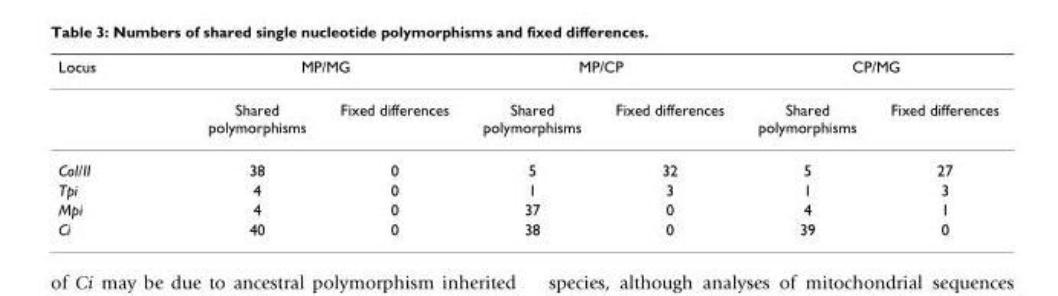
<table><thead><tr><td rowspan="2">Locus</td><td colspan="2">MP/MG</td><td colspan="2">MP/CP</td><td colspan="2">CP/MG</td></tr><tr><td>Shared polymorphisms</td><td>Fixed differences</td><td>Shared polymorphisms</td><td>Fixed differences</td><td>Shared polymorphisms</td><td>Fixed differences</td></tr></thead><tbody><tr><td>CoI/II</td><td>38</td><td>0</td><td>5</td><td>32</td><td>5</td><td>27</td></tr><tr><td>Tpi</td><td>4</td><td>0</td><td>1</td><td>3</td><td>1</td><td>3</td></tr><tr><td>Mpi</td><td>4</td><td>0</td><td>37</td><td>0</td><td>4</td><td>1</td></tr><tr><td>Ci</td><td>40</td><td>0</td><td>38</td><td>0</td><td>39</td><td>0</td></tr></tbody></table>